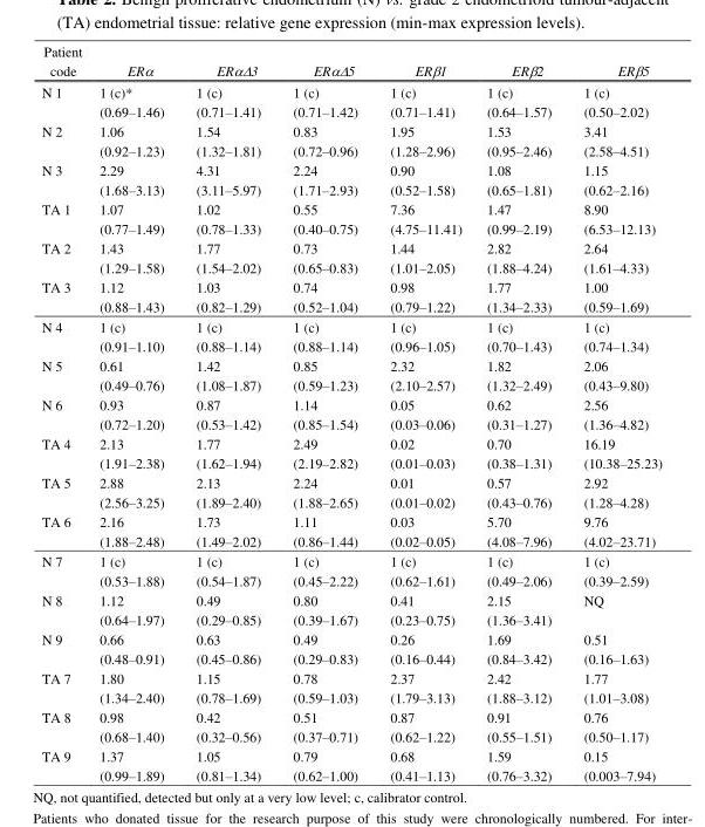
<table><thead><tr><td>Patient code</td><td>ERα</td><td>ERαΔ3</td><td>ERαΔ5</td><td>ERβ1</td><td>ERβ2</td><td>ERβ5</td></tr></thead><tbody><tr><td>N 1</td><td>1 (c)* (0.69–1.46)</td><td>1 (c) (0.71–1.41)</td><td>1 (c) (0.71–1.42)</td><td>1 (c) (0.71–1.41)</td><td>1 (c) (0.64–1.57)</td><td>1 (c) (0.50–2.02)</td></tr><tr><td>N 2</td><td>1.06 (0.92–1.23)</td><td>1.54 (1.32–1.81)</td><td>0.83 (0.72–0.96)</td><td>1.95 (1.28–2.96)</td><td>1.53 (0.95–2.46)</td><td>3.41 (2.58–4.51)</td></tr><tr><td>N 3</td><td>2.29 (1.68–3.13)</td><td>4.31 (3.11–5.97)</td><td>2.24 (1.71–2.93)</td><td>0.90 (0.52–1.58)</td><td>1.08 (0.65–1.81)</td><td>1.15 (0.62–2.16)</td></tr><tr><td>TA 1</td><td>1.07 (0.77–1.49)</td><td>1.02 (0.78–1.33)</td><td>0.55 (0.40–0.75)</td><td>7.36 (4.75–11.41)</td><td>1.47 (0.99–2.19)</td><td>8.90 (6.53–12.13)</td></tr><tr><td>TA 2</td><td>1.43 (1.29–1.58)</td><td>1.77 (1.54–2.02)</td><td>0.73 (0.65–0.83)</td><td>1.44 (1.01–2.05)</td><td>2.82 (1.88–4.24)</td><td>2.64 (1.61–4.33)</td></tr><tr><td>TA 3</td><td>1.12 (0.88–1.43)</td><td>1.03 (0.82–1.29)</td><td>0.74 (0.52–1.04)</td><td>0.98 (0.79–1.22)</td><td>1.77 (1.34–2.33)</td><td>1.00 (0.59–1.69)</td></tr><tr><td>N 4</td><td>1 (c) (0.91–1.10)</td><td>1 (c) (0.88–1.14)</td><td>1 (c) (0.88–1.14)</td><td>1 (c) (0.96–1.05)</td><td>1 (c) (0.70–1.43)</td><td>1 (c) (0.74–1.34)</td></tr><tr><td>N 5</td><td>0.61 (0.49–0.76)</td><td>1.42 (1.08–1.87)</td><td>0.85 (0.59–1.23)</td><td>2.32 (2.10–2.57)</td><td>1.82 (1.32–2.49)</td><td>2.06 (0.43–9.80)</td></tr><tr><td>N 6</td><td>0.93 (0.72–1.20)</td><td>0.87 (0.53–1.42)</td><td>1.14 (0.85–1.54)</td><td>0.05 (0.03–0.06)</td><td>0.62 (0.31–1.27)</td><td>2.56 (1.36–4.82)</td></tr><tr><td>TA 4</td><td>2.13 (1.91–2.38)</td><td>1.77 (1.62–1.94)</td><td>2.49 (2.19–2.82)</td><td>0.02 (0.01–0.03)</td><td>0.70 (0.38–1.31)</td><td>16.19 (10.38–25.23)</td></tr><tr><td>TA 5</td><td>2.88 (2.56–3.25)</td><td>2.13 (1.89–2.40)</td><td>2.24 (1.88–2.65)</td><td>0.01 (0.01–0.02)</td><td>0.57 (0.43–0.76)</td><td>2.92 (1.28–4.28)</td></tr><tr><td>TA 6</td><td>2.16 (1.88–2.48)</td><td>1.73 (1.49–2.02)</td><td>1.11 (0.86–1.44)</td><td>0.03 (0.02–0.05)</td><td>5.70 (4.08–7.96)</td><td>9.76 (4.02–23.71)</td></tr><tr><td>N 7</td><td>1 (c) (0.53–1.88)</td><td>1 (c) (0.54–1.87)</td><td>1 (c) (0.45–2.22)</td><td>1 (c) (0.62–1.61)</td><td>1 (c) (0.49–2.06)</td><td>1 (c) (0.39–2.59)</td></tr><tr><td>N 8</td><td>1.12 (0.64–1.97)</td><td>0.49 (0.29–0.85)</td><td>0.80 (0.39–1.67)</td><td>0.41 (0.23–0.75)</td><td>2.15 (1.36–3.41)</td><td>NQ</td></tr><tr><td>N 9</td><td>0.66 (0.48–0.91)</td><td>0.63 (0.45–0.86)</td><td>0.49 (0.29–0.83)</td><td>0.26 (0.16–0.44)</td><td>1.69 (0.84–3.42)</td><td>0.51 (0.16–1.63)</td></tr><tr><td>TA 7</td><td>1.80 (1.34–2.40)</td><td>1.15 (0.78–1.69)</td><td>0.78 (0.59–1.03)</td><td>2.37 (1.79–3.13)</td><td>2.42 (1.88–3.12)</td><td>1.77 (1.01–3.08)</td></tr><tr><td>TA 8</td><td>0.98 (0.68–1.40)</td><td>0.42 (0.32–0.56)</td><td>0.51 (0.37–0.71)</td><td>0.87 (0.62–1.22)</td><td>0.91 (0.55–1.51)</td><td>0.76 (0.50–1.17)</td></tr><tr><td>TA 9</td><td>1.37 (0.99–1.89)</td><td>1.05 (0.81–1.34)</td><td>0.79 (0.62–1.00)</td><td>0.68 (0.41–1.13)</td><td>1.59 (0.76–3.32)</td><td>0.15 (0.003–7.94)</td></tr></tbody></table>